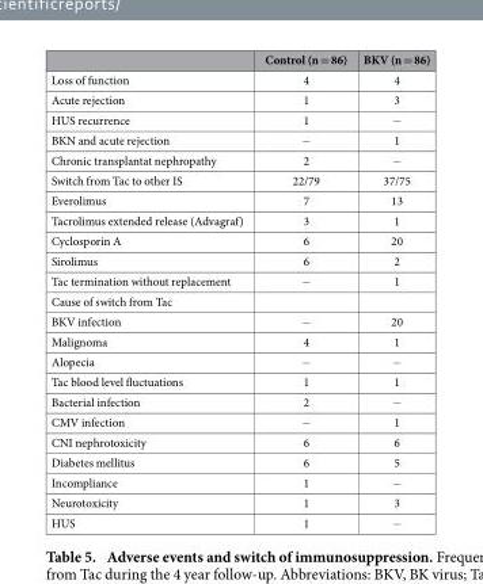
<table><thead><tr><td></td><td>Control (n = 86)</td><td>BKV (n = 86)</td></tr></thead><tbody><tr><td>Loss of function</td><td>4</td><td>4</td></tr><tr><td>Acute rejection</td><td>1</td><td>3</td></tr><tr><td>HUS recurrence</td><td>1</td><td>−</td></tr><tr><td>BKN and acute rejection</td><td>−</td><td>1</td></tr><tr><td>Chronic transplantat nephropathy</td><td>2</td><td>−</td></tr><tr><td>Switch from Tac to other IS</td><td>22/79</td><td>37/75</td></tr><tr><td>Everolimus</td><td>7</td><td>13</td></tr><tr><td>Tacrolimus extended release (Advagraf)</td><td>3</td><td>1</td></tr><tr><td>Cyclosporin A</td><td>6</td><td>20</td></tr><tr><td>Sirolimus</td><td>6</td><td>2</td></tr><tr><td>Tac termination without replacement</td><td>−</td><td>1</td></tr><tr><td colspan="3">Cause of switch from Tac</td></tr><tr><td>BKV infection</td><td>−</td><td>20</td></tr><tr><td>Malignoma</td><td>4</td><td>1</td></tr><tr><td>Alopecia</td><td>−</td><td>−</td></tr><tr><td>Tac blood level fluctuations</td><td>1</td><td>1</td></tr><tr><td>Bacterial infection</td><td>2</td><td>−</td></tr><tr><td>CMV infection</td><td>−</td><td>1</td></tr><tr><td>CNI nephrotoxicity</td><td>6</td><td>6</td></tr><tr><td>Diabetes mellitus</td><td>6</td><td>5</td></tr><tr><td>Incompliance</td><td>1</td><td>−</td></tr><tr><td>Neurotoxicity</td><td>1</td><td>3</td></tr><tr><td>HUS</td><td>1</td><td>−</td></tr></tbody></table>